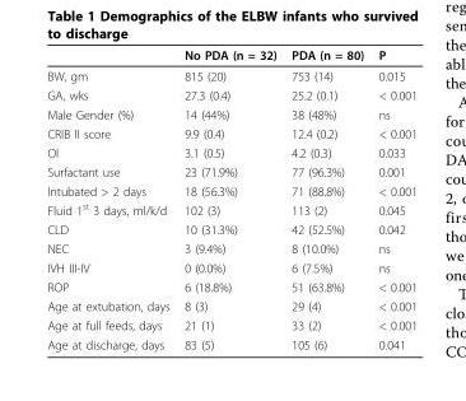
<table><thead><tr><td></td><td>No PDA (n = 32)</td><td>PDA (n = 80)</td><td>P</td></tr></thead><tbody><tr><td>BW, gm</td><td>815 (20)</td><td>753 (14)</td><td>0.015</td></tr><tr><td>GA, wks</td><td>27.3 (0.4)</td><td>25.2 (0.1)</td><td>&lt; 0.001</td></tr><tr><td>Male Gender (%)</td><td>14 (44%)</td><td>38 (48%)</td><td>ns</td></tr><tr><td>CRIB II score</td><td>9.9 (0.4)</td><td>12.4 (0.2)</td><td>&lt; 0.001</td></tr><tr><td>OI</td><td>3.1 (0.5)</td><td>4.2 (0.3)</td><td>0.033</td></tr><tr><td>Surfactant use</td><td>23 (71.9%)</td><td>77 (96.3%)</td><td>0.001</td></tr><tr><td>Intubated &gt; 2 days</td><td>18 (56.3%)</td><td>71 (88.8%)</td><td>&lt; 0.001</td></tr><tr><td>Fluid 1<sup>st</sup> 3 days, ml/k/d</td><td>102 (3)</td><td>113 (2)</td><td>0.045</td></tr><tr><td>CLD</td><td>10 (31.3%)</td><td>42 (52.5%)</td><td>0.042</td></tr><tr><td>NEC</td><td>3 (9.4%)</td><td>8 (10.0%)</td><td>ns</td></tr><tr><td>IVH III-IV</td><td>0 (0.0%)</td><td>6 (7.5%)</td><td>ns</td></tr><tr><td>ROP</td><td>6 (18.8%)</td><td>51 (63.8%)</td><td>&lt; 0.001</td></tr><tr><td>Age at extubation, days</td><td>8 (3)</td><td>29 (4)</td><td>&lt; 0.001</td></tr><tr><td>Age at full feeds, days</td><td>21 (1)</td><td>33 (2)</td><td>&lt; 0.001</td></tr><tr><td>Age at discharge, days</td><td>83 (5)</td><td>105 (6)</td><td>0.041</td></tr></tbody></table>